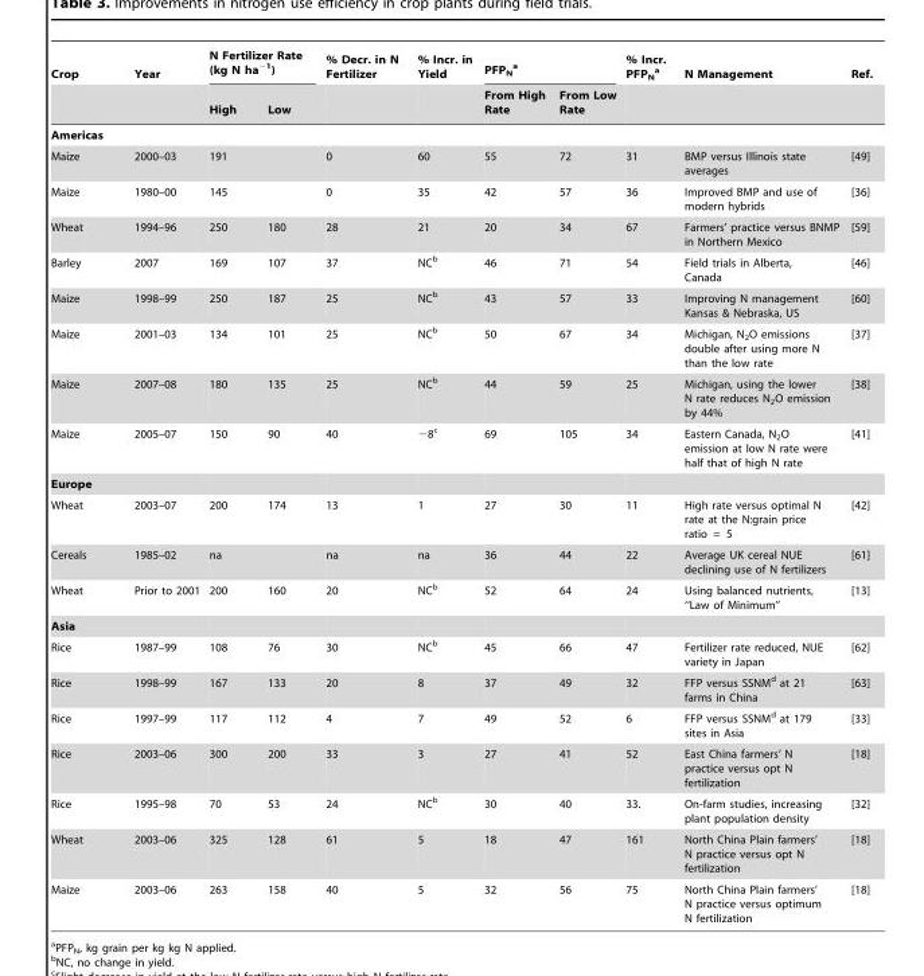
<table><thead><tr><td rowspan="2">Crop</td><td rowspan="2">Year</td><td colspan="2">N Fertilizer Rate (kg N ha<sup>−1</sup>)</td><td rowspan="2">% Decr. in N Fertilizer</td><td rowspan="2">% Incr. in Yield</td><td colspan="2">PFP<sub>N</sub> a</td><td rowspan="2">% Incr. PFP<sub>N</sub> a</td><td rowspan="2">N Management</td><td rowspan="2">Ref.</td></tr><tr><td>High</td><td>Low</td><td>From High Rate</td><td>From Low Rate</td></tr></thead><tbody><tr><td colspan="11">Americas</td></tr><tr><td>Maize</td><td>2000–03</td><td colspan="2">191</td><td>0</td><td>60</td><td>55</td><td>72</td><td>31</td><td>BMP versus Illinois state averages</td><td>[49]</td></tr><tr><td>Maize</td><td>1980–00</td><td colspan="2">145</td><td>0</td><td>35</td><td>42</td><td>57</td><td>36</td><td>Improved BMP and use of modern hybrids</td><td>[36]</td></tr><tr><td>Wheat</td><td>1994–96</td><td>250</td><td>180</td><td>28</td><td>21</td><td>20</td><td>34</td><td>67</td><td>Farmers’ practice versus BNMP in Northern Mexico</td><td>[59]</td></tr><tr><td>Barley</td><td>2007</td><td>169</td><td>107</td><td>37</td><td>NC<sup>b</sup></td><td>46</td><td>71</td><td>54</td><td>Field trials in Alberta, Canada</td><td>[46]</td></tr><tr><td>Maize</td><td>1998–99</td><td>250</td><td>187</td><td>25</td><td>NC<sup>b</sup></td><td>43</td><td>57</td><td>33</td><td>Improving N management Kansas &amp; Nebraska, US</td><td>[60]</td></tr><tr><td>Maize</td><td>2001–03</td><td>134</td><td>101</td><td>25</td><td>NC<sup>b</sup></td><td>50</td><td>67</td><td>34</td><td>Michigan, N<sub>2</sub>O emissions double after using more N than the low rate</td><td>[37]</td></tr><tr><td>Maize</td><td>2007–08</td><td>180</td><td>135</td><td>25</td><td>NC<sup>b</sup></td><td>44</td><td>59</td><td>25</td><td>Michigan, using the lower N rate reduces N<sub>2</sub>O emission by 44%</td><td>[38]</td></tr><tr><td>Maize</td><td>2005–07</td><td>150</td><td>90</td><td>40</td><td>−8<sup>c</sup></td><td>69</td><td>105</td><td>34</td><td>Eastern Canada, N<sub>2</sub>O emission at low N rate were half that of high N rate</td><td>[41]</td></tr><tr><td colspan="11">Europe</td></tr><tr><td>Wheat</td><td>2003–07</td><td>200</td><td>174</td><td>13</td><td>1</td><td>27</td><td>30</td><td>11</td><td>High rate versus optimal N rate at the N:grain price ratio = 5</td><td>[42]</td></tr><tr><td>Cereals</td><td>1985–02</td><td colspan="2">na</td><td>na</td><td>na</td><td>36</td><td>44</td><td>22</td><td>Average UK cereal NUE declining use of N fertilizers</td><td>[61]</td></tr><tr><td>Wheat</td><td>Prior to 2001</td><td>200</td><td>160</td><td>20</td><td>NC<sup>b</sup></td><td>52</td><td>64</td><td>24</td><td>Using balanced nutrients, ‘‘Law of Minimum’’</td><td>[13]</td></tr><tr><td colspan="11">Asia</td></tr><tr><td>Rice</td><td>1987–99</td><td>108</td><td>76</td><td>30</td><td>NC<sup>b</sup></td><td>45</td><td>66</td><td>47</td><td>Fertilizer rate reduced, NUE variety in Japan</td><td>[62]</td></tr><tr><td>Rice</td><td>1998–99</td><td>167</td><td>133</td><td>20</td><td>8</td><td>37</td><td>49</td><td>32</td><td>FFP versus SSNM<sup>d</sup> at 21 farms in China</td><td>[63]</td></tr><tr><td>Rice</td><td>1997–99</td><td>117</td><td>112</td><td>4</td><td>7</td><td>49</td><td>52</td><td>6</td><td>FFP versus SSNM<sup>d</sup> at 179 sites in Asia</td><td>[33]</td></tr><tr><td>Rice</td><td>2003–06</td><td>300</td><td>200</td><td>33</td><td>3</td><td>27</td><td>41</td><td>52</td><td>East China farmers’ N practice versus opt N fertilization</td><td>[18]</td></tr><tr><td>Rice</td><td>1995–98</td><td>70</td><td>53</td><td>24</td><td>NC<sup>b</sup></td><td>30</td><td>40</td><td>33.</td><td>On-farm studies, increasing plant population density</td><td>[32]</td></tr><tr><td>Wheat</td><td>2003–06</td><td>325</td><td>128</td><td>61</td><td>5</td><td>18</td><td>47</td><td>161</td><td>North China Plain farmers’ N practice versus opt N fertilization</td><td>[18]</td></tr><tr><td>Maize</td><td>2003–06</td><td>263</td><td>158</td><td>40</td><td>5</td><td>32</td><td>56</td><td>75</td><td>North China Plain farmers’ N practice versus optimum N fertilization</td><td>[18]</td></tr></tbody></table>